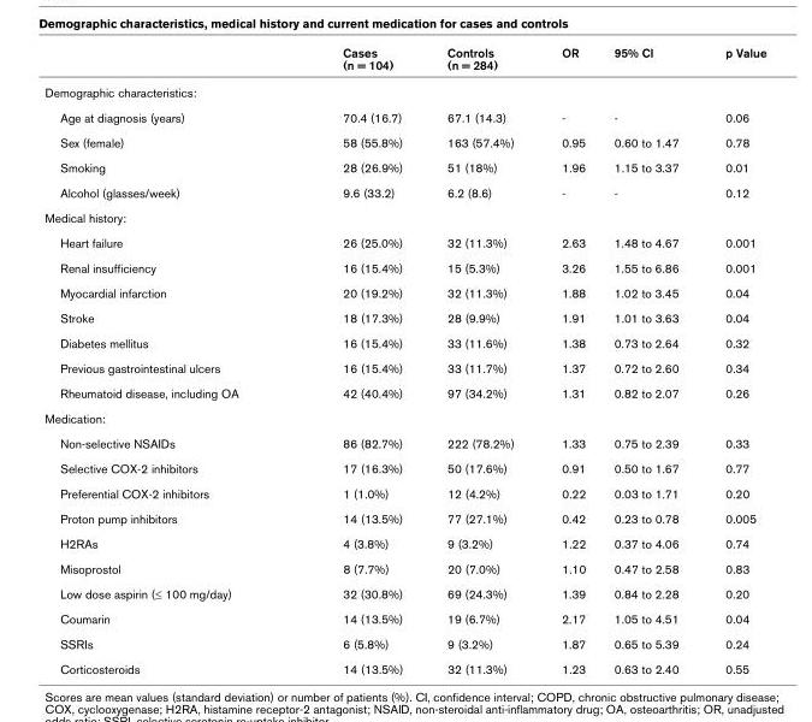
<table><thead><tr><td></td><td>Cases (n = 104)</td><td>Controls (n = 284)</td><td>OR</td><td>95% CI</td><td>p Value</td></tr></thead><tbody><tr><td colspan="6">Demographic characteristics:</td></tr><tr><td>Age at diagnosis (years)</td><td>70.4 (16.7)</td><td>67.1 (14.3)</td><td>-</td><td>-</td><td>0.06</td></tr><tr><td>Sex (female)</td><td>58 (55.8%)</td><td>163 (57.4%)</td><td>0.95</td><td>0.60 to 1.47</td><td>0.78</td></tr><tr><td>Smoking</td><td>28 (26.9%)</td><td>51 (18%)</td><td>1.96</td><td>1.15 to 3.37</td><td>0.01</td></tr><tr><td>Alcohol (glasses/week)</td><td>9.6 (33.2)</td><td>6.2 (8.6)</td><td>-</td><td>-</td><td>0.12</td></tr><tr><td colspan="6">Medical history:</td></tr><tr><td>Heart failure</td><td>26 (25.0%)</td><td>32 (11.3%)</td><td>2.63</td><td>1.48 to 4.67</td><td>0.001</td></tr><tr><td>Renal insufficiency</td><td>16 (15.4%)</td><td>15 (5.3%)</td><td>3.26</td><td>1.55 to 6.86</td><td>0.001</td></tr><tr><td>Myocardial infarction</td><td>20 (19.2%)</td><td>32 (11.3%)</td><td>1.88</td><td>1.02 to 3.45</td><td>0.04</td></tr><tr><td>Stroke</td><td>18 (17.3%)</td><td>28 (9.9%)</td><td>1.91</td><td>1.01 to 3.63</td><td>0.04</td></tr><tr><td>Diabetes mellitus</td><td>16 (15.4%)</td><td>33 (11.6%)</td><td>1.38</td><td>0.73 to 2.64</td><td>0.32</td></tr><tr><td>Previous gastrointestinal ulcers</td><td>16 (15.4%)</td><td>33 (11.7%)</td><td>1.37</td><td>0.72 to 2.60</td><td>0.34</td></tr><tr><td>Rheumatoid disease, including OA</td><td>42 (40.4%)</td><td>97 (34.2%)</td><td>1.31</td><td>0.82 to 2.07</td><td>0.26</td></tr><tr><td colspan="6">Medication:</td></tr><tr><td>Non-selective NSAIDs</td><td>86 (82.7%)</td><td>222 (78.2%)</td><td>1.33</td><td>0.75 to 2.39</td><td>0.33</td></tr><tr><td>Selective COX-2 inhibitors</td><td>17 (16.3%)</td><td>50 (17.6%)</td><td>0.91</td><td>0.50 to 1.67</td><td>0.77</td></tr><tr><td>Preferential COX-2 inhibitors</td><td>1 (1.0%)</td><td>12 (4.2%)</td><td>0.22</td><td>0.03 to 1.71</td><td>0.20</td></tr><tr><td>Proton pump inhibitors</td><td>14 (13.5%)</td><td>77 (27.1%)</td><td>0.42</td><td>0.23 to 0.78</td><td>0.005</td></tr><tr><td>H2RAs</td><td>4 (3.8%)</td><td>9 (3.2%)</td><td>1.22</td><td>0.37 to 4.06</td><td>0.74</td></tr><tr><td>Misoprostol</td><td>8 (7.7%)</td><td>20 (7.0%)</td><td>1.10</td><td>0.47 to 2.58</td><td>0.83</td></tr><tr><td>Low dose aspirin (≤ 100 mg/day)</td><td>32 (30.8%)</td><td>69 (24.3%)</td><td>1.39</td><td>0.84 to 2.28</td><td>0.20</td></tr><tr><td>Coumarin</td><td>14 (13.5%)</td><td>19 (6.7%)</td><td>2.17</td><td>1.05 to 4.51</td><td>0.04</td></tr><tr><td>SSRIs</td><td>6 (5.8%)</td><td>9 (3.2%)</td><td>1.87</td><td>0.65 to 5.39</td><td>0.24</td></tr><tr><td>Corticosteroids</td><td>14 (13.5%)</td><td>32 (11.3%)</td><td>1.23</td><td>0.63 to 2.40</td><td>0.55</td></tr></tbody></table>